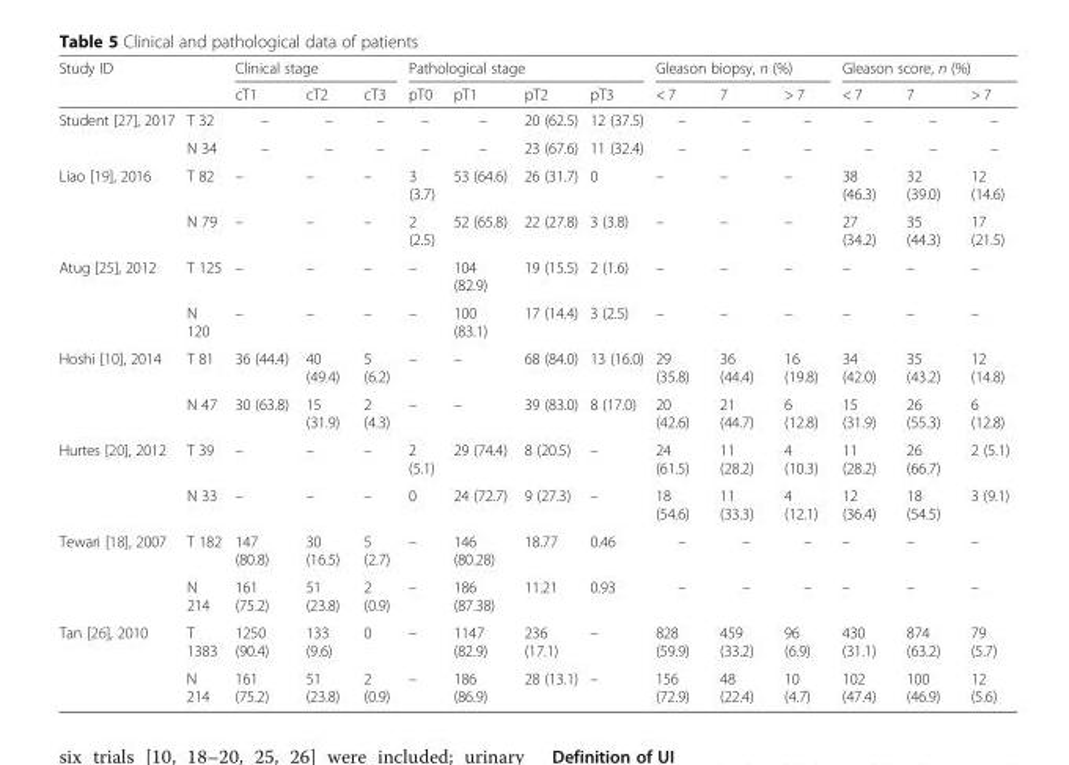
<table><thead><tr><td rowspan="2">Study ID</td><td rowspan="2"></td><td colspan="3">Clinical stage</td><td colspan="4">Pathological stage</td><td colspan="3">Gleason biopsy, n (%)</td><td colspan="3">Gleason score, n (%)</td></tr><tr><td>cT1</td><td>cT2</td><td>cT3</td><td>pT0</td><td>pT1</td><td>pT2</td><td>pT3</td><td>&lt; 7</td><td>7</td><td>&gt; 7</td><td>&lt; 7</td><td>7</td><td>&gt; 7</td></tr></thead><tbody><tr><td rowspan="2">Student [27], 2017</td><td>T 32</td><td>–</td><td>–</td><td>–</td><td>–</td><td>–</td><td>20 (62.5)</td><td>12 (37.5)</td><td>–</td><td>–</td><td>–</td><td>–</td><td>–</td><td>–</td></tr><tr><td>N 34</td><td>–</td><td>–</td><td>–</td><td>–</td><td>–</td><td>23 (67.6)</td><td>11 (32.4)</td><td>–</td><td>–</td><td>–</td><td>–</td><td>–</td><td>–</td></tr><tr><td rowspan="2">Liao [19], 2016</td><td>T 82</td><td>–</td><td>–</td><td>–</td><td>3 (3.7)</td><td>53 (64.6)</td><td>26 (31.7)</td><td>0</td><td>–</td><td>–</td><td>–</td><td>38 (46.3)</td><td>32 (39.0)</td><td>12 (14.6)</td></tr><tr><td>N 79</td><td>–</td><td>–</td><td>–</td><td>2 (2.5)</td><td>52 (65.8)</td><td>22 (27.8)</td><td>3 (3.8)</td><td>–</td><td>–</td><td>–</td><td>27 (34.2)</td><td>35 (44.3)</td><td>17 (21.5)</td></tr><tr><td rowspan="2">Atug [25], 2012</td><td>T 125</td><td>–</td><td>–</td><td>–</td><td>–</td><td>104 (82.9)</td><td>19 (15.5)</td><td>2 (1.6)</td><td>–</td><td>–</td><td>–</td><td>–</td><td>–</td><td>–</td></tr><tr><td>N 120</td><td>–</td><td>–</td><td>–</td><td>–</td><td>100 (83.1)</td><td>17 (14.4)</td><td>3 (2.5)</td><td>–</td><td>–</td><td>–</td><td>–</td><td>–</td><td>–</td></tr><tr><td rowspan="2">Hoshi [10], 2014</td><td>T 81</td><td>36 (44.4)</td><td>40 (49.4)</td><td>5 (6.2)</td><td>–</td><td>–</td><td>68 (84.0)</td><td>13 (16.0)</td><td>29 (35.8)</td><td>36 (44.4)</td><td>16 (19.8)</td><td>34 (42.0)</td><td>35 (43.2)</td><td>12 (14.8)</td></tr><tr><td>N 47</td><td>30 (63.8)</td><td>15 (31.9)</td><td>2 (4.3)</td><td>–</td><td>–</td><td>39 (83.0)</td><td>8 (17.0)</td><td>20 (42.6)</td><td>21 (44.7)</td><td>6 (12.8)</td><td>15 (31.9)</td><td>26 (55.3)</td><td>6 (12.8)</td></tr><tr><td rowspan="2">Hurtes [20], 2012</td><td>T 39</td><td>–</td><td>–</td><td>–</td><td>2 (5.1)</td><td>29 (74.4)</td><td>8 (20.5)</td><td>–</td><td>24 (61.5)</td><td>11 (28.2)</td><td>4 (10.3)</td><td>11 (28.2)</td><td>26 (66.7)</td><td>2 (5.1)</td></tr><tr><td>N 33</td><td>–</td><td>–</td><td>–</td><td>0</td><td>24 (72.7)</td><td>9 (27.3)</td><td>–</td><td>18 (54.6)</td><td>11 (33.3)</td><td>4 (12.1)</td><td>12 (36.4)</td><td>18 (54.5)</td><td>3 (9.1)</td></tr><tr><td rowspan="2">Tewari [18], 2007</td><td>T 182</td><td>147 (80.8)</td><td>30 (16.5)</td><td>5 (2.7)</td><td>–</td><td>146 (80.28)</td><td>18.77</td><td>0.46</td><td>–</td><td>–</td><td>–</td><td>–</td><td>–</td><td>–</td></tr><tr><td>N 214</td><td>161 (75.2)</td><td>51 (23.8)</td><td>2 (0.9)</td><td>–</td><td>186 (87.38)</td><td>11.21</td><td>0.93</td><td>–</td><td>–</td><td>–</td><td>–</td><td>–</td><td>–</td></tr><tr><td rowspan="2">Tan [26], 2010</td><td>T 1383</td><td>1250 (90.4)</td><td>133 (9.6)</td><td>0</td><td>–</td><td>1147 (82.9)</td><td>236 (17.1)</td><td>–</td><td>828 (59.9)</td><td>459 (33.2)</td><td>96 (6.9)</td><td>430 (31.1)</td><td>874 (63.2)</td><td>79 (5.7)</td></tr><tr><td>N 214</td><td>161 (75.2)</td><td>51 (23.8)</td><td>2 (0.9)</td><td>–</td><td>186 (86.9)</td><td>28 (13.1)</td><td>–</td><td>156 (72.9)</td><td>48 (22.4)</td><td>10 (4.7)</td><td>102 (47.4)</td><td>100 (46.9)</td><td>12 (5.6)</td></tr></tbody></table>